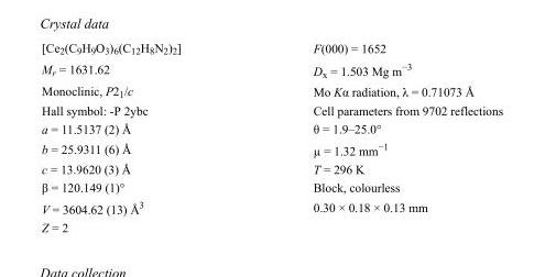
<table><tbody><tr><td>[Ce<sub>2</sub>(C<sub>9</sub>H<sub>9</sub>O<sub>3</sub>)<sub>6</sub>(C<sub>12</sub>H<sub>8</sub>N<sub>2</sub>)<sub>2</sub>]</td><td>F(000) = 1652</td></tr><tr><td>M<sub>r</sub> = 1631.62</td><td>D<sub>x</sub> = 1.503 Mg m<sup>−3</sup></td></tr><tr><td>Monoclinic, P2<sub>1</sub>/c</td><td>Mo Kα radiation, λ = 0.71073 Å</td></tr><tr><td>Hall symbol: -P 2ybc</td><td>Cell parameters from 9702 reflections</td></tr><tr><td>a = 11.5137 (2) Å</td><td>θ = 1.9–25.0°</td></tr><tr><td>b = 25.9311 (6) Å</td><td>µ = 1.32 mm<sup>−1</sup></td></tr><tr><td>c = 13.9620 (3) Å</td><td>T = 296 K</td></tr><tr><td>β = 120.149 (1)°</td><td>Block, colourless</td></tr><tr><td>V = 3604.62 (13) Å<sup>3</sup></td><td>0.30 × 0.18 × 0.13 mm</td></tr><tr><td>Z = 2</td><td></td></tr></tbody></table>